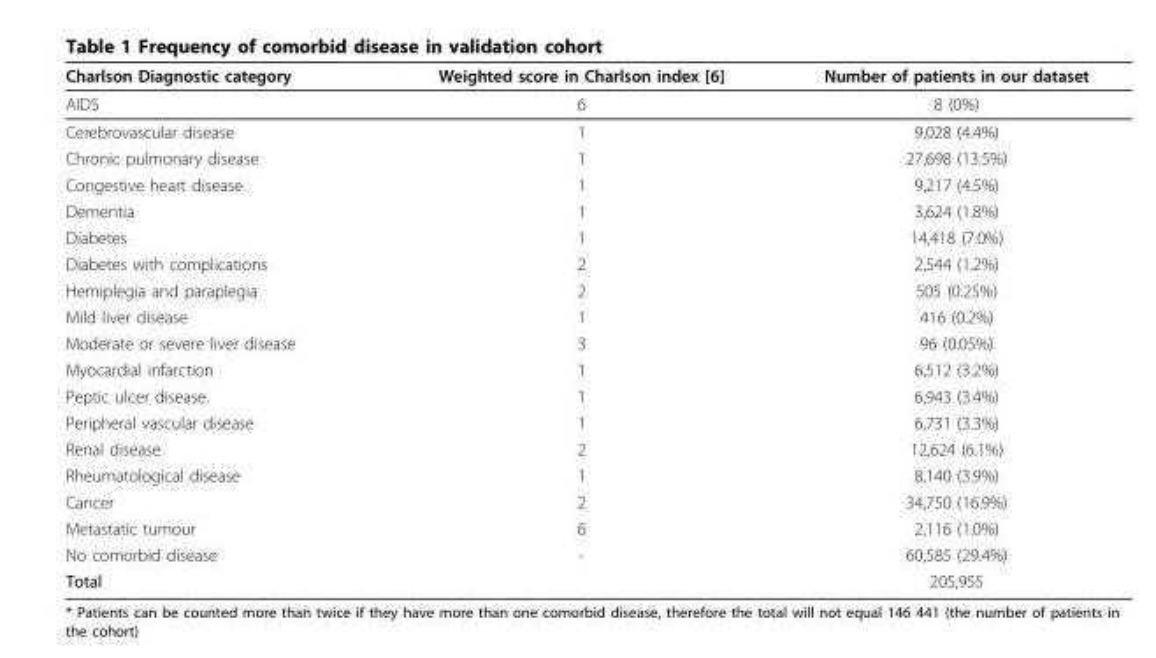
<table><thead><tr><td>Charlson Diagnostic category</td><td>Weighted score in Charlson index [6]</td><td>Number of patients in our dataset</td></tr></thead><tbody><tr><td>AIDS</td><td>6</td><td>8 (0%)</td></tr><tr><td>Cerebrovascular disease</td><td>1</td><td>9,028 (4.4%)</td></tr><tr><td>Chronic pulmonary disease</td><td>1</td><td>27,698 (13.5%)</td></tr><tr><td>Congestive heart disease</td><td>1</td><td>9,217 (4.5%)</td></tr><tr><td>Dementia</td><td>1</td><td>3,624 (1.8%)</td></tr><tr><td>Diabetes</td><td>1</td><td>14,418 (7.0%)</td></tr><tr><td>Diabetes with complications</td><td>2</td><td>2,544 (1.2%)</td></tr><tr><td>Hemiplegia and paraplegia</td><td>2</td><td>505 (0.25%)</td></tr><tr><td>Mild liver disease</td><td>1</td><td>416 (0.2%)</td></tr><tr><td>Moderate or severe liver disease</td><td>3</td><td>96 (0.05%)</td></tr><tr><td>Myocardial infarction</td><td>1</td><td>6,512 (3.2%)</td></tr><tr><td>Peptic ulcer disease</td><td>1</td><td>6,943 (3.4%)</td></tr><tr><td>Peripheral vascular disease</td><td>1</td><td>6,731 (3.3%)</td></tr><tr><td>Renal disease</td><td>2</td><td>12,624 (6.1%)</td></tr><tr><td>Rheumatological disease</td><td>1</td><td>8,140 (3.9%)</td></tr><tr><td>Cancer</td><td>2</td><td>34,750 (16.9%)</td></tr><tr><td>Metastatic tumour</td><td>6</td><td>2,116 (1.0%)</td></tr><tr><td>No comorbid disease</td><td>-</td><td>60,585 (29.4%)</td></tr><tr><td colspan="2">Total</td><td>205,955</td></tr></tbody></table>